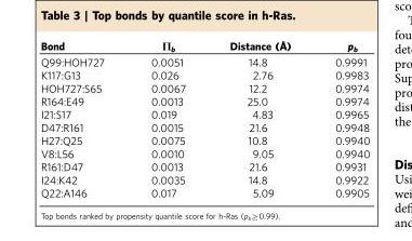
<table><thead><tr><td>Bond</td><td>Π<sub>b</sub></td><td>Distance (Å)</td><td>p<sub>b</sub></td></tr></thead><tbody><tr><td>Q99:HOH727</td><td>0.0051</td><td>14.8</td><td>0.9991</td></tr><tr><td>K117:G13</td><td>0.026</td><td>2.76</td><td>0.9983</td></tr><tr><td>HOH727:S65</td><td>0.0067</td><td>12.2</td><td>0.9974</td></tr><tr><td>R164:E49</td><td>0.0013</td><td>25.0</td><td>0.9974</td></tr><tr><td>I21:S17</td><td>0.019</td><td>4.83</td><td>0.9965</td></tr><tr><td>D47:R161</td><td>0.0015</td><td>21.6</td><td>0.9948</td></tr><tr><td>H27:Q25</td><td>0.0075</td><td>10.8</td><td>0.9940</td></tr><tr><td>V8:L56</td><td>0.0010</td><td>9.05</td><td>0.9940</td></tr><tr><td>R161:D47</td><td>0.0013</td><td>21.6</td><td>0.9931</td></tr><tr><td>I24:K42</td><td>0.0035</td><td>14.8</td><td>0.9922</td></tr><tr><td>Q22:A146</td><td>0.017</td><td>5.09</td><td>0.9905</td></tr></tbody></table>